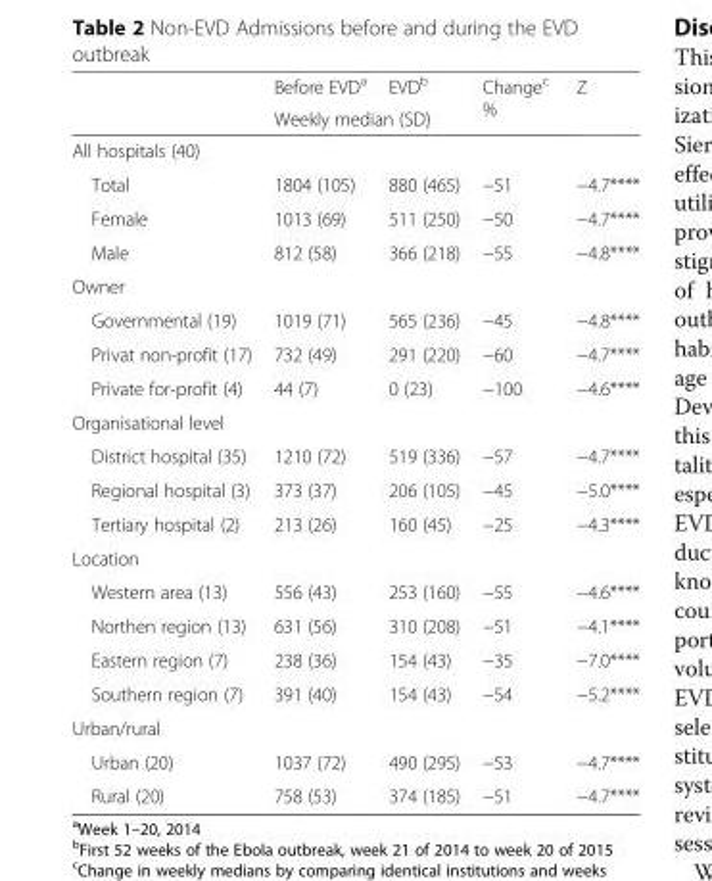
<table><thead><tr><td rowspan="2"></td><td>Before EVD<sup>a</sup></td><td>EVD<sup>b</sup></td><td rowspan="2">Change<sup>c</sup> %</td><td rowspan="2">Z</td></tr><tr><td colspan="2">Weekly median (SD)</td></tr></thead><tbody><tr><td colspan="5">All hospitals (40)</td></tr><tr><td>Total</td><td>1804 (105)</td><td>880 (465)</td><td>−51</td><td>−4.7****</td></tr><tr><td>Female</td><td>1013 (69)</td><td>511 (250)</td><td>−50</td><td>−4.7****</td></tr><tr><td>Male</td><td>812 (58)</td><td>366 (218)</td><td>−55</td><td>−4.8****</td></tr><tr><td colspan="5">Owner</td></tr><tr><td>Governmental (19)</td><td>1019 (71)</td><td>565 (236)</td><td>−45</td><td>−4.8****</td></tr><tr><td>Privat non-profit (17)</td><td>732 (49)</td><td>291 (220)</td><td>−60</td><td>−4.7****</td></tr><tr><td>Private for-profit (4)</td><td>44 (7)</td><td>0 (23)</td><td>−100</td><td>−4.6****</td></tr><tr><td colspan="5">Organisational level</td></tr><tr><td>District hospital (35)</td><td>1210 (72)</td><td>519 (336)</td><td>−57</td><td>−4.7****</td></tr><tr><td>Regional hospital (3)</td><td>373 (37)</td><td>206 (105)</td><td>−45</td><td>−5.0****</td></tr><tr><td>Tertiary hospital (2)</td><td>213 (26)</td><td>160 (45)</td><td>−25</td><td>−4.3****</td></tr><tr><td colspan="5">Location</td></tr><tr><td>Western area (13)</td><td>556 (43)</td><td>253 (160)</td><td>−55</td><td>−4.6****</td></tr><tr><td>Northen region (13)</td><td>631 (56)</td><td>310 (208)</td><td>−51</td><td>−4.1****</td></tr><tr><td>Eastern region (7)</td><td>238 (36)</td><td>154 (43)</td><td>−35</td><td>−7.0****</td></tr><tr><td>Southern region (7)</td><td>391 (40)</td><td>154 (43)</td><td>−54</td><td>−5.2****</td></tr><tr><td colspan="5">Urban/rural</td></tr><tr><td>Urban (20)</td><td>1037 (72)</td><td>490 (295)</td><td>−53</td><td>−4.7****</td></tr><tr><td>Rural (20)</td><td>758 (53)</td><td>374 (185)</td><td>−51</td><td>−4.7****</td></tr></tbody></table>